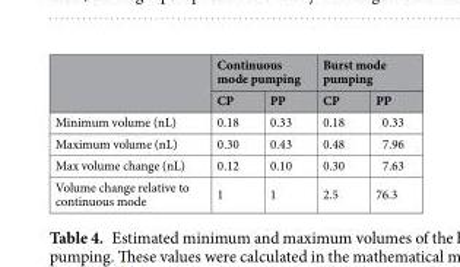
<table><thead><tr><td rowspan="2"></td><td colspan="2">Continuous mode pumping</td><td colspan="2">Burst mode pumping</td></tr><tr><td>CP</td><td>PP</td><td>CP</td><td>PP</td></tr></thead><tbody><tr><td>Minimum volume (nL)</td><td>0.18</td><td>0.33</td><td>0.18</td><td>0.33</td></tr><tr><td>Maximum volume (nL)</td><td>0.30</td><td>0.43</td><td>0.48</td><td>7.96</td></tr><tr><td>Max volume change (nL)</td><td>0.12</td><td>0.10</td><td>0.30</td><td>7.63</td></tr><tr><td>Volume change relative to continuous mode</td><td>1</td><td>1</td><td>2.5</td><td>76.3</td></tr></tbody></table>